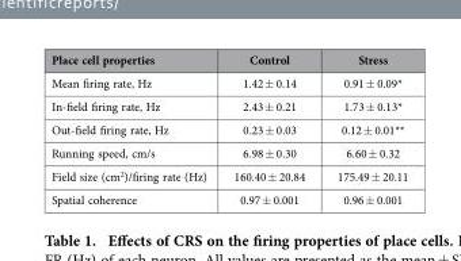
<table><thead><tr><td>Place cell properties</td><td>Control</td><td>Stress</td></tr></thead><tbody><tr><td>Mean firing rate, Hz</td><td>1.42 ± 0.14</td><td>0.91 ± 0.09*</td></tr><tr><td>In-field firing rate, Hz</td><td>2.43 ± 0.21</td><td>1.73 ± 0.13*</td></tr><tr><td>Out-field firing rate, Hz</td><td>0.23 ± 0.03</td><td>0.12 ± 0.01**</td></tr><tr><td>Running speed, cm/s</td><td>6.98 ± 0.30</td><td>6.60 ± 0.32</td></tr><tr><td>Field size (cm<sup>2</sup>)/firing rate (Hz)</td><td>160.40 ± 20.84</td><td>175.49 ± 20.11</td></tr><tr><td>Spatial coherence</td><td>0.97 ± 0.001</td><td>0.96 ± 0.001</td></tr></tbody></table>